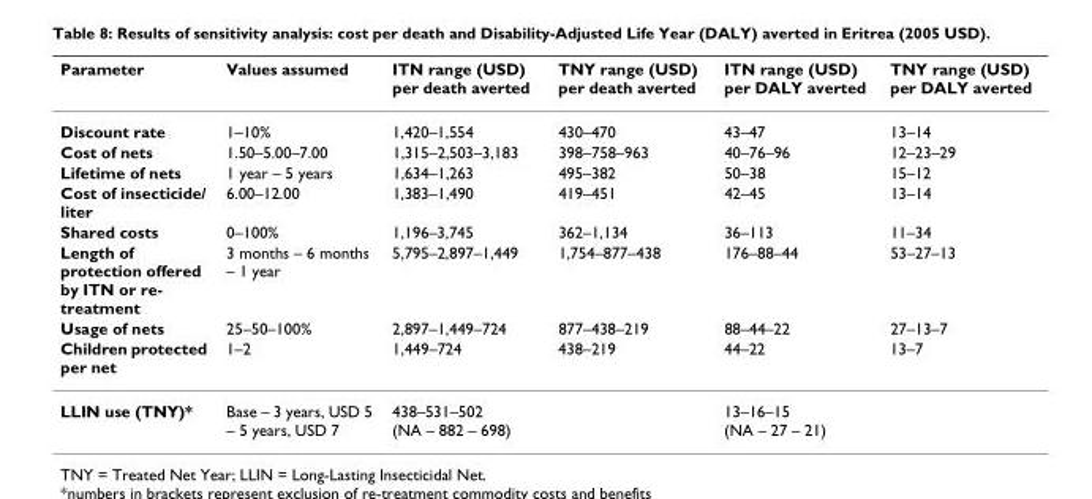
<table><thead><tr><td>Parameter</td><td>Values assumed</td><td>ITN range (USD) per death averted</td><td>TNY range (USD) per death averted</td><td>ITN range (USD) per DALY averted</td><td>TNY range (USD) per DALY averted</td></tr></thead><tbody><tr><td>Discount rate</td><td>1–10%</td><td>1,420–1,554</td><td>430–470</td><td>43–47</td><td>13–14</td></tr><tr><td>Cost of nets</td><td>1.50–5.00–7.00</td><td>1,315–2,503–3,183</td><td>398–758–963</td><td>40–76–96</td><td>12–23–29</td></tr><tr><td>Lifetime of nets</td><td>1 year – 5 years</td><td>1,634–1,263</td><td>495–382</td><td>50–38</td><td>15–12</td></tr><tr><td>Cost of insecticide/ liter</td><td>6.00–12.00</td><td>1,383–1,490</td><td>419–451</td><td>42–45</td><td>13–14</td></tr><tr><td>Shared costs</td><td>0–100%</td><td>1,196–3,745</td><td>362–1,134</td><td>36–113</td><td>11–34</td></tr><tr><td>Length of protection offered by ITN or re- treatment</td><td>3 months – 6 months – 1 year</td><td>5,795–2,897–1,449</td><td>1,754–877–438</td><td>176–88–44</td><td>53–27–13</td></tr><tr><td>Usage of nets</td><td>25–50–100%</td><td>2,897–1,449–724</td><td>877–438–219</td><td>88–44–22</td><td>27–13–7</td></tr><tr><td>Children protected per net</td><td>1–2</td><td>1,449–724</td><td>438–219</td><td>44–22</td><td>13–7</td></tr><tr><td>LLIN use (TNY)*</td><td>Base – 3 years, USD 5 – 5 years, USD 7</td><td colspan="2">438–531–502 (NA – 882 – 698)</td><td colspan="2">13–16–15 (NA – 27 – 21)</td></tr></tbody></table>